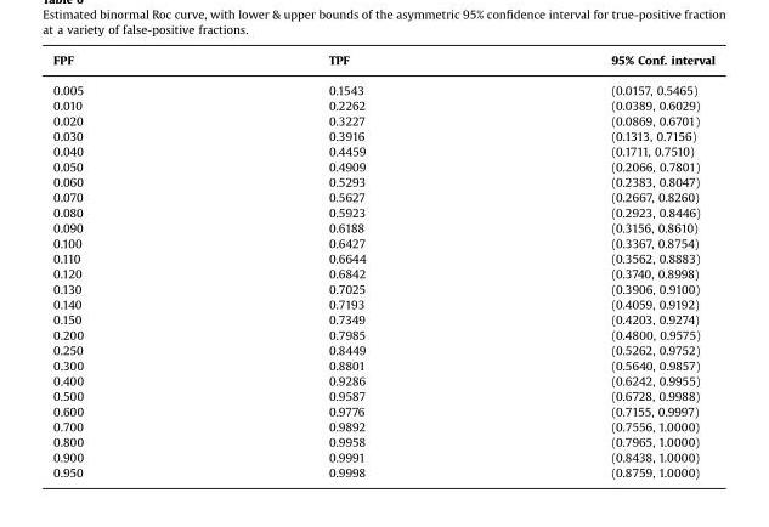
<table><thead><tr><td>FPF</td><td>TPF</td><td>95% Conf. interval</td></tr></thead><tbody><tr><td>0.005</td><td>0.1543</td><td>(0.0157, 0.5465)</td></tr><tr><td>0.010</td><td>0.2262</td><td>(0.0389, 0.6029)</td></tr><tr><td>0.020</td><td>0.3227</td><td>(0.0869, 0.6701)</td></tr><tr><td>0.030</td><td>0.3916</td><td>(0.1313, 0.7156)</td></tr><tr><td>0.040</td><td>0.4459</td><td>(0.1711, 0.7510)</td></tr><tr><td>0.050</td><td>0.4909</td><td>(0.2066, 0.7801)</td></tr><tr><td>0.060</td><td>0.5293</td><td>(0.2383, 0.8047)</td></tr><tr><td>0.070</td><td>0.5627</td><td>(0.2667, 0.8260)</td></tr><tr><td>0.080</td><td>0.5923</td><td>(0.2923, 0.8446)</td></tr><tr><td>0.090</td><td>0.6188</td><td>(0.3156, 0.8610)</td></tr><tr><td>0.100</td><td>0.6427</td><td>(0.3367, 0.8754)</td></tr><tr><td>0.110</td><td>0.6644</td><td>(0.3562, 0.8883)</td></tr><tr><td>0.120</td><td>0.6842</td><td>(0.3740, 0.8998)</td></tr><tr><td>0.130</td><td>0.7025</td><td>(0.3906, 0.9100)</td></tr><tr><td>0.140</td><td>0.7193</td><td>(0.4059, 0.9192)</td></tr><tr><td>0.150</td><td>0.7349</td><td>(0.4203, 0.9274)</td></tr><tr><td>0.200</td><td>0.7985</td><td>(0.4800, 0.9575)</td></tr><tr><td>0.250</td><td>0.8449</td><td>(0.5262, 0.9752)</td></tr><tr><td>0.300</td><td>0.8801</td><td>(0.5640, 0.9857)</td></tr><tr><td>0.400</td><td>0.9286</td><td>(0.6242, 0.9955)</td></tr><tr><td>0.500</td><td>0.9587</td><td>(0.6728, 0.9988)</td></tr><tr><td>0.600</td><td>0.9776</td><td>(0.7155, 0.9997)</td></tr><tr><td>0.700</td><td>0.9892</td><td>(0.7556, 1.0000)</td></tr><tr><td>0.800</td><td>0.9958</td><td>(0.7965, 1.0000)</td></tr><tr><td>0.900</td><td>0.9991</td><td>(0.8438, 1.0000)</td></tr><tr><td>0.950</td><td>0.9998</td><td>(0.8759, 1.0000)</td></tr></tbody></table>